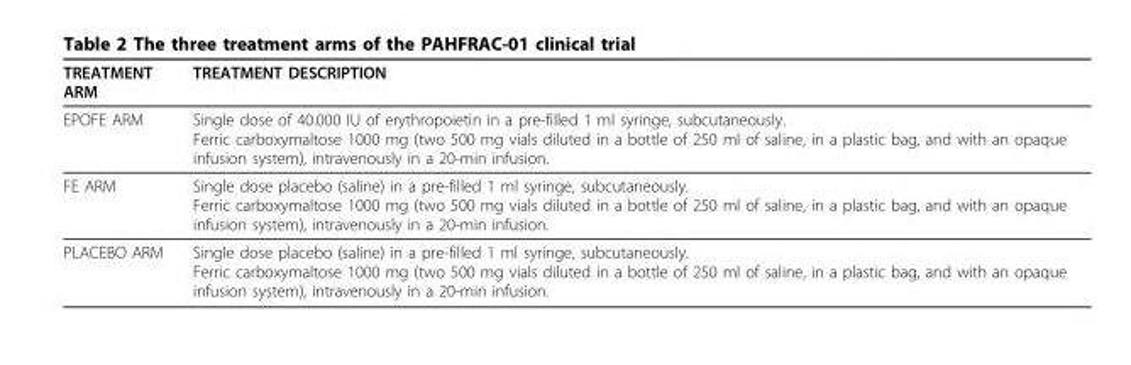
<table><thead><tr><td>TREATMENT ARM</td><td>TREATMENT DESCRIPTION</td></tr></thead><tbody><tr><td>EPOFE ARM</td><td>Single dose of 40.000 IU of erythropoietin in a pre-filled 1 ml syringe, subcutaneously. Ferric carboxymaltose 1000 mg (two 500 mg vials diluted in a bottle of 250 ml of saline, in a plastic bag, and with an opaque infusion system), intravenously in a 20-min infusion.</td></tr><tr><td>FE ARM</td><td>Single dose placebo (saline) in a pre-filled 1 ml syringe, subcutaneously. Ferric carboxymaltose 1000 mg (two 500 mg vials diluted in a bottle of 250 ml of saline, in a plastic bag, and with an opaque infusion system), intravenously in a 20-min infusion.</td></tr><tr><td>PLACEBO ARM</td><td>Single dose placebo (saline) in a pre-filled 1 ml syringe, subcutaneously. Ferric carboxymaltose 1000 mg (two 500 mg vials diluted in a bottle of 250 ml of saline, in a plastic bag, and with an opaque infusion system), intravenously in a 20-min infusion.</td></tr></tbody></table>